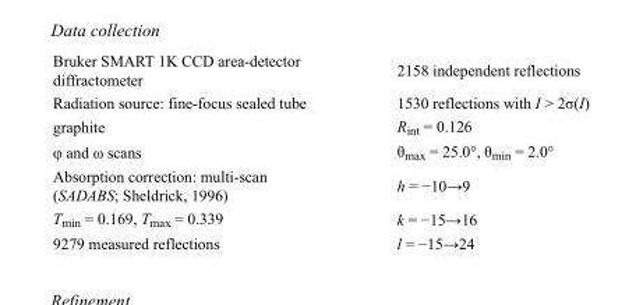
<table><tbody><tr><td>Bruker SMART 1K CCD area-detector diffractometer</td><td>2158 independent reflections</td></tr><tr><td>Radiation source: fine-focus sealed tube</td><td>1530 reflections with I &gt; 2σ(I)</td></tr><tr><td>graphite</td><td>R<sub>int</sub> = 0.126</td></tr><tr><td>φ and ω scans</td><td>θ<sub>max</sub> = 25.0°, θ<sub>min</sub> = 2.0°</td></tr><tr><td>Absorption correction: multi-scan (SADABS; Sheldrick, 1996)</td><td>h = −10→9</td></tr><tr><td>T<sub>min</sub> = 0.169, T<sub>max</sub> = 0.339</td><td>k = −15→16</td></tr><tr><td>9279 measured reflections</td><td>l = −15→24</td></tr></tbody></table>